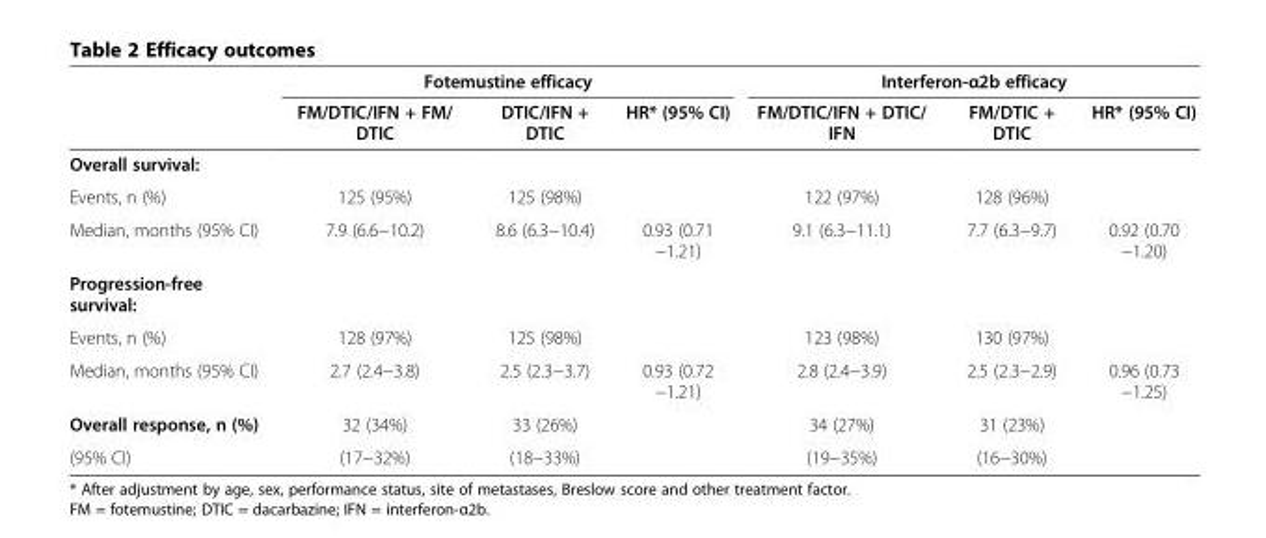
<table><thead><tr><td rowspan="2"></td><td colspan="3">Fotemustine efficacy</td><td colspan="3">Interferon-α2b efficacy</td></tr><tr><td>FM/DTIC/IFN + FM/ DTIC</td><td>DTIC/IFN + DTIC</td><td>HR* (95% CI)</td><td>FM/DTIC/IFN + DTIC/ IFN</td><td>FM/DTIC + DTIC</td><td>HR* (95% CI)</td></tr></thead><tbody><tr><td colspan="7">Overall survival:</td></tr><tr><td>Events, n (%)</td><td>125 (95%)</td><td>125 (98%)</td><td></td><td>122 (97%)</td><td>128 (96%)</td><td></td></tr><tr><td>Median, months (95% CI)</td><td>7.9 (6.6−10.2)</td><td>8.6 (6.3−10.4)</td><td>0.93 (0.71 −1.21)</td><td>9.1 (6.3−11.1)</td><td>7.7 (6.3−9.7)</td><td>0.92 (0.70 −1.20)</td></tr><tr><td colspan="7">Progression-free survival:</td></tr><tr><td>Events, n (%)</td><td>128 (97%)</td><td>125 (98%)</td><td></td><td>123 (98%)</td><td>130 (97%)</td><td></td></tr><tr><td>Median, months (95% CI)</td><td>2.7 (2.4−3.8)</td><td>2.5 (2.3−3.7)</td><td>0.93 (0.72 −1.21)</td><td>2.8 (2.4−3.9)</td><td>2.5 (2.3−2.9)</td><td>0.96 (0.73 −1.25)</td></tr><tr><td>Overall response, n (%)</td><td>32 (34%)</td><td>33 (26%)</td><td></td><td>34 (27%)</td><td>31 (23%)</td><td></td></tr><tr><td>(95% CI)</td><td>(17−32%)</td><td>(18−33%)</td><td></td><td>(19−35%)</td><td>(16−30%)</td><td></td></tr></tbody></table>